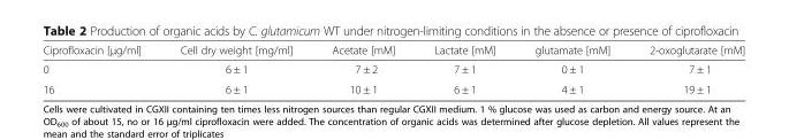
<table><thead><tr><td>Ciprofloxacin [μg/ml]</td><td>Cell dry weight [mg/ml]</td><td>Acetate [mM]</td><td>Lactate [mM]</td><td>glutamate [mM]</td><td>2-oxoglutarate [mM]</td></tr></thead><tbody><tr><td>0</td><td>6 ± 1</td><td>7 ± 2</td><td>7 ± 1</td><td>0 ± 1</td><td>7 ± 1</td></tr><tr><td>16</td><td>6 ± 1</td><td>10 ± 1</td><td>6 ± 1</td><td>4 ± 1</td><td>19 ± 1</td></tr></tbody></table>